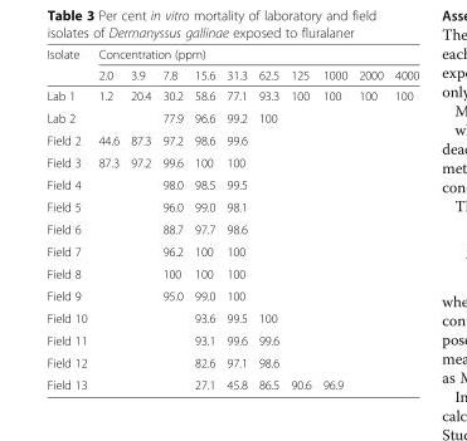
<table><thead><tr><td rowspan="2">Isolate</td><td colspan="10">Concentration (ppm)</td></tr><tr><td>2.0</td><td>3.9</td><td>7.8</td><td>15.6</td><td>31.3</td><td>62.5</td><td>125</td><td>1000</td><td>2000</td><td>4000</td></tr></thead><tbody><tr><td>Lab 1</td><td>1.2</td><td>20.4</td><td>30.2</td><td>58.6</td><td>77.1</td><td>93.3</td><td>100</td><td>100</td><td>100</td><td>100</td></tr><tr><td>Lab 2</td><td></td><td></td><td>77.9</td><td>96.6</td><td>99.2</td><td>100</td><td></td><td></td><td colspan="2"></td></tr><tr><td>Field 2</td><td>44.6</td><td>87.3</td><td>97.2</td><td>98.6</td><td>99.6</td><td></td><td></td><td></td><td colspan="2"></td></tr><tr><td>Field 3</td><td>87.3</td><td>97.2</td><td>99.6</td><td>100</td><td>100</td><td></td><td></td><td></td><td colspan="2"></td></tr><tr><td>Field 4</td><td></td><td></td><td>98.0</td><td>98.5</td><td>99.5</td><td></td><td></td><td></td><td colspan="2"></td></tr><tr><td>Field 5</td><td></td><td></td><td>96.0</td><td>99.0</td><td>98.1</td><td></td><td></td><td></td><td colspan="2"></td></tr><tr><td>Field 6</td><td></td><td></td><td>88.7</td><td>97.7</td><td>98.6</td><td></td><td></td><td></td><td colspan="2"></td></tr><tr><td>Field 7</td><td></td><td></td><td>96.2</td><td>100</td><td>100</td><td></td><td></td><td></td><td colspan="2"></td></tr><tr><td>Field 8</td><td></td><td></td><td>100</td><td>100</td><td>100</td><td></td><td></td><td></td><td colspan="2"></td></tr><tr><td>Field 9</td><td></td><td></td><td>95.0</td><td>99.0</td><td>100</td><td></td><td></td><td></td><td colspan="2"></td></tr><tr><td>Field 10</td><td></td><td></td><td></td><td>93.6</td><td>99.5</td><td>100</td><td></td><td></td><td></td><td></td></tr><tr><td>Field 11</td><td></td><td></td><td></td><td>93.1</td><td>99.6</td><td>99.6</td><td></td><td></td><td></td><td></td></tr><tr><td>Field 12</td><td></td><td></td><td></td><td>82.6</td><td>97.1</td><td>98.6</td><td></td><td></td><td></td><td></td></tr><tr><td>Field 13</td><td></td><td></td><td></td><td>27.1</td><td>45.8</td><td>86.5</td><td>90.6</td><td>96.9</td><td></td><td></td></tr></tbody></table>